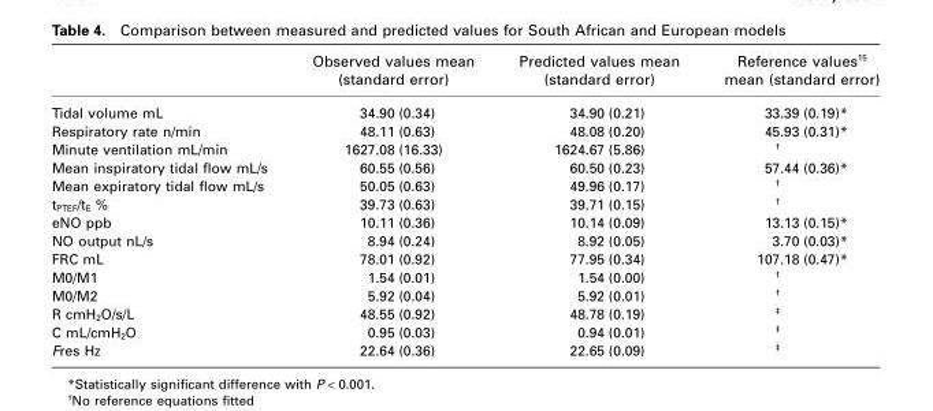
<table><thead><tr><td></td><td>Observed values mean (standard error)</td><td>Predicted values mean (standard error)</td><td>Reference values<sup>15</sup> mean (standard error)</td></tr></thead><tbody><tr><td>Tidal volume mL</td><td>34.90 (0.34)</td><td>34.90 (0.21)</td><td>33.39 (0.19)*</td></tr><tr><td>Respiratory rate n/min</td><td>48.11 (0.63)</td><td>48.08 (0.20)</td><td>45.93 (0.31)*</td></tr><tr><td>Minute ventilation mL/min</td><td>1627.08 (16.33)</td><td>1624.67 (5.86)</td><td>†</td></tr><tr><td>Mean inspiratory tidal flow mL/s</td><td>60.55 (0.56)</td><td>60.50 (0.23)</td><td>57.44 (0.36)*</td></tr><tr><td>Mean expiratory tidal flow mL/s</td><td>50.05 (0.63)</td><td>49.96 (0.17)</td><td>†</td></tr><tr><td>t<sub>PTEF</sub>/t<sub>E</sub> %</td><td>39.73 (0.63)</td><td>39.71 (0.15)</td><td>†</td></tr><tr><td>eNO ppb</td><td>10.11 (0.36)</td><td>10.14 (0.09)</td><td>13.13 (0.15)*</td></tr><tr><td>NO output nL/s</td><td>8.94 (0.24)</td><td>8.92 (0.05)</td><td>3.70 (0.03)*</td></tr><tr><td>FRC mL</td><td>78.01 (0.92)</td><td>77.95 (0.34)</td><td>107.18 (0.47)*</td></tr><tr><td>M0/M1</td><td>1.54 (0.01)</td><td>1.54 (0.00)</td><td>†</td></tr><tr><td>M0/M2</td><td>5.92 (0.04)</td><td>5.92 (0.01)</td><td>†</td></tr><tr><td>R cmH<sub>2</sub>O/s/L</td><td>48.55 (0.92)</td><td>48.78 (0.19)</td><td>‡</td></tr><tr><td>C mL/cmH<sub>2</sub>O</td><td>0.95 (0.03)</td><td>0.94 (0.01)</td><td>‡</td></tr><tr><td>Fres Hz</td><td>22.64 (0.36)</td><td>22.65 (0.09)</td><td>‡</td></tr></tbody></table>